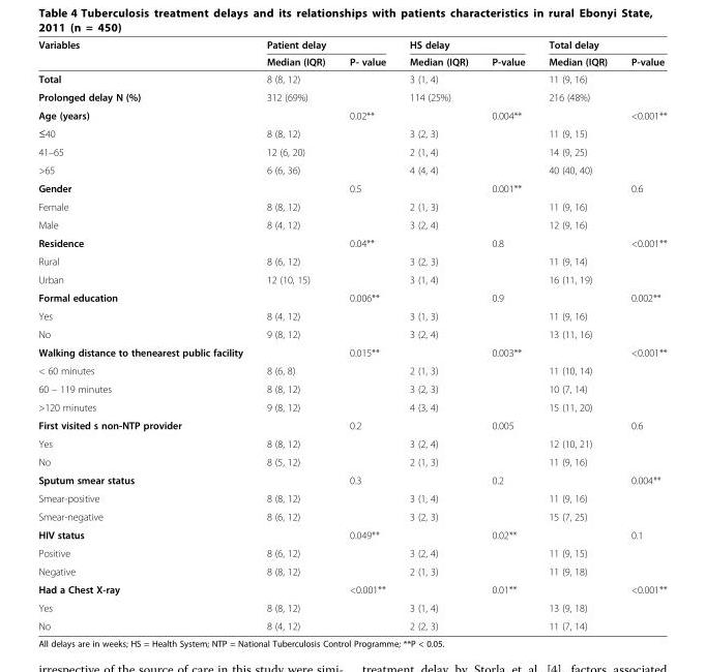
<table><thead><tr><td rowspan="2">Variables</td><td rowspan="2">Patient delay Median (IQR)</td><td rowspan="2">P- value</td><td rowspan="2">HS delay Median (IQR)</td><td rowspan="2">P-value</td><td rowspan="2">Total delay Median (IQR)</td><td rowspan="2">P-value</td></tr><tr></tr></thead><tbody><tr><td>Total</td><td>8 (8, 12)</td><td></td><td>3 (1, 4)</td><td></td><td>11 (9, 16)</td><td></td></tr><tr><td>Prolonged delay N (%)</td><td>312 (69%)</td><td></td><td>114 (25%)</td><td></td><td>216 (48%)</td><td></td></tr><tr><td>Age (years)</td><td></td><td>0.02**</td><td></td><td>0.004**</td><td></td><td>&lt;0.001**</td></tr><tr><td>≤40</td><td>8 (8, 12)</td><td></td><td>3 (2, 3)</td><td></td><td>11 (9, 15)</td><td></td></tr><tr><td>41–65</td><td>12 (6, 20)</td><td></td><td>2 (1, 4)</td><td></td><td>14 (9, 25)</td><td></td></tr><tr><td>&gt;65</td><td>6 (6, 36)</td><td></td><td>4 (4, 4)</td><td></td><td>40 (40, 40)</td><td></td></tr><tr><td>Gender</td><td></td><td>0.5</td><td></td><td>0.001**</td><td></td><td>0.6</td></tr><tr><td>Female</td><td>8 (8, 12)</td><td></td><td>2 (1, 3)</td><td></td><td>11 (9, 16)</td><td></td></tr><tr><td>Male</td><td>8 (4, 12)</td><td></td><td>3 (2, 4)</td><td></td><td>12 (9, 16)</td><td></td></tr><tr><td>Residence</td><td></td><td>0.04**</td><td></td><td>0.8</td><td></td><td>&lt;0.001**</td></tr><tr><td>Rural</td><td>8 (6, 12)</td><td></td><td>3 (2, 3)</td><td></td><td>11 (9, 14)</td><td></td></tr><tr><td>Urban</td><td>12 (10, 15)</td><td></td><td>3 (1, 4)</td><td></td><td>16 (11, 19)</td><td></td></tr><tr><td>Formal education</td><td></td><td>0.006**</td><td></td><td>0.9</td><td></td><td>0.002**</td></tr><tr><td>Yes</td><td>8 (4, 12)</td><td></td><td>3 (1, 3)</td><td></td><td>11 (9, 16)</td><td></td></tr><tr><td>No</td><td>9 (8, 12)</td><td></td><td>3 (2, 4)</td><td></td><td>13 (11, 16)</td><td></td></tr><tr><td>Walking distance to thenearest public facility</td><td></td><td>0.015**</td><td></td><td>0.003**</td><td></td><td>&lt;0.001**</td></tr><tr><td>&lt; 60 minutes</td><td>8 (6, 8)</td><td></td><td>2 (1, 3)</td><td></td><td>11 (10, 14)</td><td></td></tr><tr><td>60 – 119 minutes</td><td>8 (8, 12)</td><td></td><td>3 (2, 3)</td><td></td><td>10 (7, 14)</td><td></td></tr><tr><td>&gt;120 minutes</td><td>9 (8, 12)</td><td></td><td>4 (3, 4)</td><td></td><td>15 (11, 20)</td><td></td></tr><tr><td>First visited s non-NTP provider</td><td></td><td>0.2</td><td></td><td>0.005</td><td></td><td>0.6</td></tr><tr><td>Yes</td><td>8 (8, 12)</td><td></td><td>3 (2, 4)</td><td></td><td>12 (10, 21)</td><td></td></tr><tr><td>No</td><td>8 (5, 12)</td><td></td><td>2 (1, 3)</td><td></td><td>11 (9, 16)</td><td></td></tr><tr><td>Sputum smear status</td><td></td><td>0.3</td><td></td><td>0.2</td><td></td><td>0.004**</td></tr><tr><td>Smear-positive</td><td>8 (8, 12)</td><td></td><td>3 (1, 4)</td><td></td><td>11 (9, 16)</td><td></td></tr><tr><td>Smear-negative</td><td>8 (6, 12)</td><td></td><td>3 (2, 3)</td><td></td><td>15 (7, 25)</td><td></td></tr><tr><td>HIV status</td><td></td><td>0.049**</td><td></td><td>0.02**</td><td></td><td>0.1</td></tr><tr><td>Positive</td><td>8 (6, 12)</td><td></td><td>3 (2, 4)</td><td></td><td>11 (9, 15)</td><td></td></tr><tr><td>Negative</td><td>8 (8, 12)</td><td></td><td>2 (1, 3)</td><td></td><td>11 (9, 18)</td><td></td></tr><tr><td>Had a Chest X-ray</td><td></td><td>&lt;0.001**</td><td></td><td>0.01**</td><td></td><td>&lt;0.001**</td></tr><tr><td>Yes</td><td>8 (8, 12)</td><td></td><td>3 (1, 4)</td><td></td><td>13 (9, 18)</td><td></td></tr><tr><td>No</td><td>8 (4, 12)</td><td></td><td>2 (2, 3)</td><td></td><td>11 (7, 14)</td><td></td></tr></tbody></table>